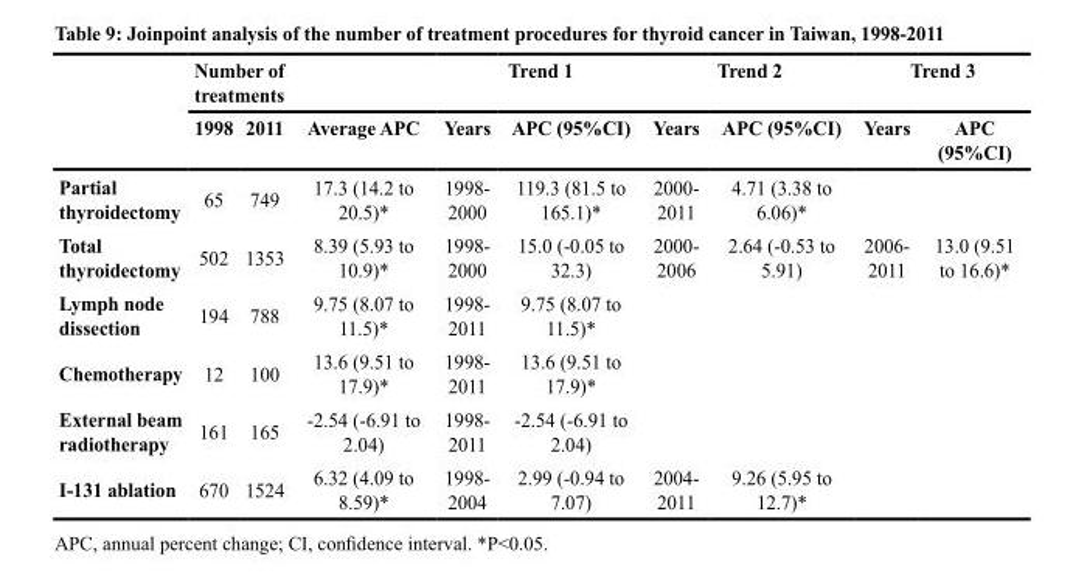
<table><thead><tr><td rowspan="2"></td><td colspan="2">Number of treatments</td><td rowspan="2">Average APC</td><td colspan="2">Trend 1</td><td colspan="2">Trend 2</td><td colspan="2">Trend 3</td></tr><tr><td>1998</td><td>2011</td><td>Years</td><td>APC (95%CI)</td><td>Years</td><td>APC (95%CI)</td><td>Years</td><td>APC (95%CI)</td></tr></thead><tbody><tr><td>Partial thyroidectomy</td><td>65</td><td>749</td><td>17.3 (14.2 to 20.5)*</td><td>1998- 2000</td><td>119.3 (81.5 to 165.1)*</td><td>2000- 2011</td><td>4.71 (3.38 to 6.06)*</td><td></td><td></td></tr><tr><td>Total thyroidectomy</td><td>502</td><td>1353</td><td>8.39 (5.93 to 10.9)*</td><td>1998- 2000</td><td>15.0 (-0.05 to 32.3)</td><td>2000- 2006</td><td>2.64 (-0.53 to 5.91)</td><td>2006- 2011</td><td>13.0 (9.51 to 16.6)*</td></tr><tr><td>Lymph node dissection</td><td>194</td><td>788</td><td>9.75 (8.07 to 11.5)*</td><td>1998- 2011</td><td>9.75 (8.07 to 11.5)*</td><td></td><td></td><td></td><td></td></tr><tr><td>Chemotherapy</td><td>12</td><td>100</td><td>13.6 (9.51 to 17.9)*</td><td>1998- 2011</td><td>13.6 (9.51 to 17.9)*</td><td></td><td></td><td></td><td></td></tr><tr><td>External beam radiotherapy</td><td>161</td><td>165</td><td>-2.54 (-6.91 to 2.04)</td><td>1998- 2011</td><td>-2.54 (-6.91 to 2.04)</td><td></td><td></td><td></td><td></td></tr><tr><td>I-131 ablation</td><td>670</td><td>1524</td><td>6.32 (4.09 to 8.59)*</td><td>1998- 2004</td><td>2.99 (-0.94 to 7.07)</td><td>2004- 2011</td><td>9.26 (5.95 to 12.7)*</td><td></td><td></td></tr></tbody></table>